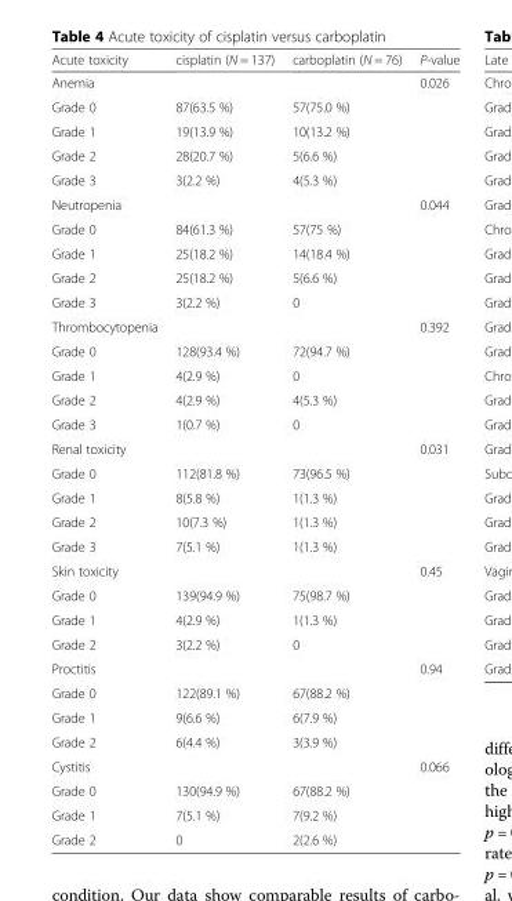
<table><thead><tr><td>Acute toxicity</td><td>cisplatin (N = 137)</td><td>carboplatin (N = 76)</td><td>P-value</td></tr></thead><tbody><tr><td colspan="3">Anemia</td><td rowspan="5">0.026</td></tr><tr><td>Grade 0</td><td>87(63.5 %)</td><td>57(75.0 %)</td></tr><tr><td>Grade 1</td><td>19(13.9 %)</td><td>10(13.2 %)</td></tr><tr><td>Grade 2</td><td>28(20.7 %)</td><td>5(6.6 %)</td></tr><tr><td>Grade 3</td><td>3(2.2 %)</td><td>4(5.3 %)</td></tr><tr><td colspan="3">Neutropenia</td><td rowspan="5">0.044</td></tr><tr><td>Grade 0</td><td>84(61.3 %)</td><td>57(75 %)</td></tr><tr><td>Grade 1</td><td>25(18.2 %)</td><td>14(18.4 %)</td></tr><tr><td>Grade 2</td><td>25(18.2 %)</td><td>5(6.6 %)</td></tr><tr><td>Grade 3</td><td>3(2.2 %)</td><td>0</td></tr><tr><td colspan="3">Thrombocytopenia</td><td rowspan="5">0.392</td></tr><tr><td>Grade 0</td><td>128(93.4 %)</td><td>72(94.7 %)</td></tr><tr><td>Grade 1</td><td>4(2.9 %)</td><td>0</td></tr><tr><td>Grade 2</td><td>4(2.9 %)</td><td>4(5.3 %)</td></tr><tr><td>Grade 3</td><td>1(0.7 %)</td><td>0</td></tr><tr><td colspan="3">Renal toxicity</td><td rowspan="5">0.031</td></tr><tr><td>Grade 0</td><td>112(81.8 %)</td><td>73(96.5 %)</td></tr><tr><td>Grade 1</td><td>8(5.8 %)</td><td>1(1.3 %)</td></tr><tr><td>Grade 2</td><td>10(7.3 %)</td><td>1(1.3 %)</td></tr><tr><td>Grade 3</td><td>7(5.1 %)</td><td>1(1.3 %)</td></tr><tr><td colspan="3">Skin toxicity</td><td rowspan="4">0.45</td></tr><tr><td>Grade 0</td><td>139(94.9 %)</td><td>75(98.7 %)</td></tr><tr><td>Grade 1</td><td>4(2.9 %)</td><td>1(1.3 %)</td></tr><tr><td>Grade 2</td><td>3(2.2 %)</td><td>0</td></tr><tr><td colspan="3">Proctitis</td><td rowspan="4">0.94</td></tr><tr><td>Grade 0</td><td>122(89.1 %)</td><td>67(88.2 %)</td></tr><tr><td>Grade 1</td><td>9(6.6 %)</td><td>6(7.9 %)</td></tr><tr><td>Grade 2</td><td>6(4.4 %)</td><td>3(3.9 %)</td></tr><tr><td colspan="3">Cystitis</td><td rowspan="4">0.066</td></tr><tr><td>Grade 0</td><td>130(94.9 %)</td><td>67(88.2 %)</td></tr><tr><td>Grade 1</td><td>7(5.1 %)</td><td>7(9.2 %)</td></tr><tr><td>Grade 2</td><td>0</td><td>2(2.6 %)</td></tr></tbody></table>